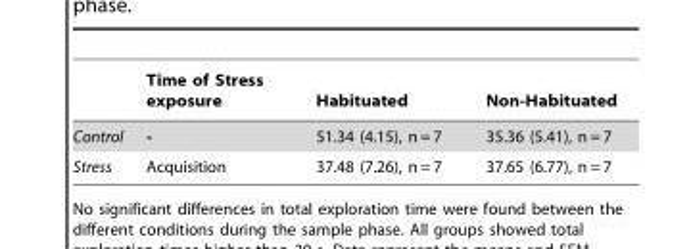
<table><thead><tr><td></td><td>Time of Stress exposure</td><td>Habituated</td><td>Non-Habituated</td></tr></thead><tbody><tr><td>Control</td><td>-</td><td>51.34 (4.15), n = 7</td><td>35.36 (5.41), n = 7</td></tr><tr><td>Stress</td><td>Acquisition</td><td>37.48 (7.26), n = 7</td><td>37.65 (6.77), n = 7</td></tr></tbody></table>